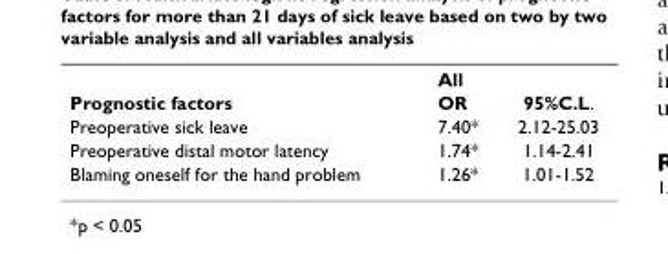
<table><thead><tr><td></td><td>All</td><td></td></tr></thead><tbody><tr><td>Prognostic factors</td><td>OR</td><td>95%C.L.</td></tr><tr><td>Preoperative sick leave</td><td>7.40*</td><td>2.12-25.03</td></tr><tr><td>Preoperative distal motor latency</td><td>1.74*</td><td>1.14-2.41</td></tr><tr><td>Blaming oneself for the hand problem</td><td>1.26*</td><td>1.01-1.52</td></tr></tbody></table>